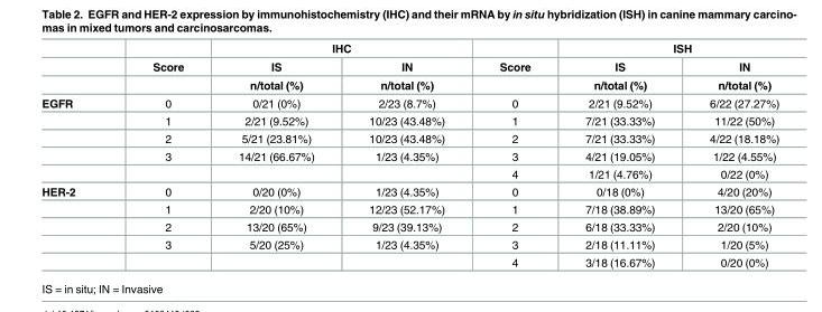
<table><thead><tr><td rowspan="3"></td><td rowspan="3">Score</td><td colspan="2">IHC</td><td rowspan="3">Score</td><td colspan="2">ISH</td></tr><tr><td rowspan="2">IS n/total (%)</td><td rowspan="2">IN n/total (%)</td><td rowspan="2">IS n/total (%)</td><td rowspan="2">IN n/total (%)</td></tr><tr></tr></thead><tbody><tr><td rowspan="5">EGFR</td><td>0</td><td>0/21 (0%)</td><td>2/23 (8.7%)</td><td>0</td><td>2/21 (9.52%)</td><td>6/22 (27.27%)</td></tr><tr><td>1</td><td>2/21 (9.52%)</td><td>10/23 (43.48%)</td><td>1</td><td>7/21 (33.33%)</td><td>11/22 (50%)</td></tr><tr><td>2</td><td>5/21 (23.81%)</td><td>10/23 (43.48%)</td><td>2</td><td>7/21 (33.33%)</td><td>4/22 (18.18%)</td></tr><tr><td>3</td><td>14/21 (66.67%)</td><td>1/23 (4.35%)</td><td>3</td><td>4/21 (19.05%)</td><td>1/22 (4.55%)</td></tr><tr><td></td><td></td><td></td><td>4</td><td>1/21 (4.76%)</td><td>0/22 (0%)</td></tr><tr><td rowspan="5">HER-2</td><td>0</td><td>0/20 (0%)</td><td>1/23 (4.35%)</td><td>0</td><td>0/18 (0%)</td><td>4/20 (20%)</td></tr><tr><td>1</td><td>2/20 (10%)</td><td>12/23 (52.17%)</td><td>1</td><td>7/18 (38.89%)</td><td>13/20 (65%)</td></tr><tr><td>2</td><td>13/20 (65%)</td><td>9/23 (39.13%)</td><td>2</td><td>6/18 (33.33%)</td><td>2/20 (10%)</td></tr><tr><td>3</td><td>5/20 (25%)</td><td>1/23 (4.35%)</td><td>3</td><td>2/18 (11.11%)</td><td>1/20 (5%)</td></tr><tr><td></td><td></td><td></td><td>4</td><td>3/18 (16.67%)</td><td>0/20 (0%)</td></tr></tbody></table>